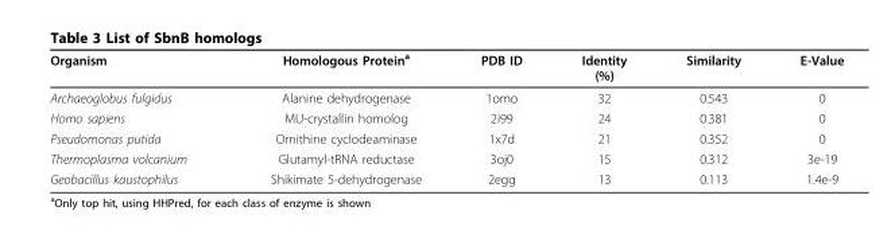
<table><thead><tr><td>Organism</td><td>Homologous Protein<sup>a</sup></td><td>PDB ID</td><td>Identity (%)</td><td>Similarity</td><td>E-Value</td></tr></thead><tbody><tr><td>Archaeoglobus fulgidus</td><td>Alanine dehydrogenase</td><td>1omo</td><td>32</td><td>0.543</td><td>0</td></tr><tr><td>Homo sapiens</td><td>MU-crystallin homolog</td><td>2i99</td><td>24</td><td>0.381</td><td>0</td></tr><tr><td>Pseudomonas putida</td><td>Ornithine cyclodeaminase</td><td>1x7d</td><td>21</td><td>0.352</td><td>0</td></tr><tr><td>Thermoplasma volcanium</td><td>Glutamyl-tRNA reductase</td><td>3oj0</td><td>15</td><td>0.312</td><td>3e-19</td></tr><tr><td>Geobacillus kaustophilus</td><td>Shikimate 5-dehydrogenase</td><td>2egg</td><td>13</td><td>0.113</td><td>1.4e-9</td></tr></tbody></table>